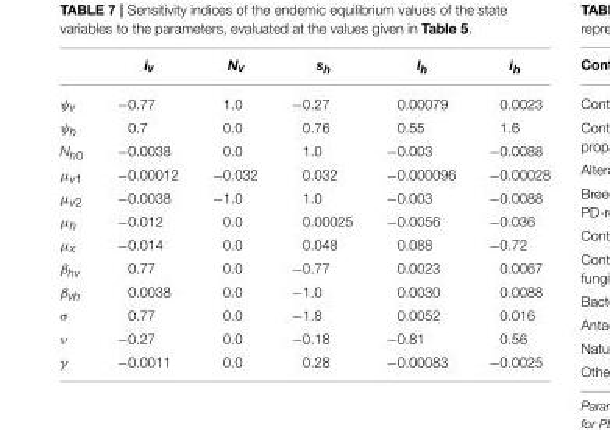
<table><thead><tr><td></td><td>iv</td><td>Nv</td><td>sh</td><td>lh</td><td>ih</td></tr></thead><tbody><tr><td>ψv</td><td>−0.77</td><td>1.0</td><td>−0.27</td><td>0.00079</td><td>0.0023</td></tr><tr><td>ψh</td><td>0.7</td><td>0.0</td><td>0.76</td><td>0.55</td><td>1.6</td></tr><tr><td>Nh0</td><td>−0.0038</td><td>0.0</td><td>1.0</td><td>−0.003</td><td>−0.0088</td></tr><tr><td>µv1</td><td>−0.00012</td><td>−0.032</td><td>0.032</td><td>−0.000096</td><td>−0.00028</td></tr><tr><td>µv2</td><td>−0.0038</td><td>−1.0</td><td>1.0</td><td>−0.003</td><td>−0.0088</td></tr><tr><td>µh</td><td>−0.012</td><td>0.0</td><td>0.00025</td><td>−0.0056</td><td>−0.036</td></tr><tr><td>µx</td><td>−0.014</td><td>0.0</td><td>0.048</td><td>0.088</td><td>−0.72</td></tr><tr><td>βhv</td><td>0.77</td><td>0.0</td><td>−0.77</td><td>0.0023</td><td>0.0067</td></tr><tr><td>βvh</td><td>0.0038</td><td>0.0</td><td>−1.0</td><td>0.0030</td><td>0.0088</td></tr><tr><td>σ</td><td>0.77</td><td>0.0</td><td>−1.8</td><td>0.0052</td><td>0.016</td></tr><tr><td>ν</td><td>−0.27</td><td>0.0</td><td>−0.18</td><td>−0.81</td><td>0.56</td></tr><tr><td>γ</td><td>−0.0011</td><td>0.0</td><td>0.28</td><td>−0.00083</td><td>−0.0025</td></tr></tbody></table>